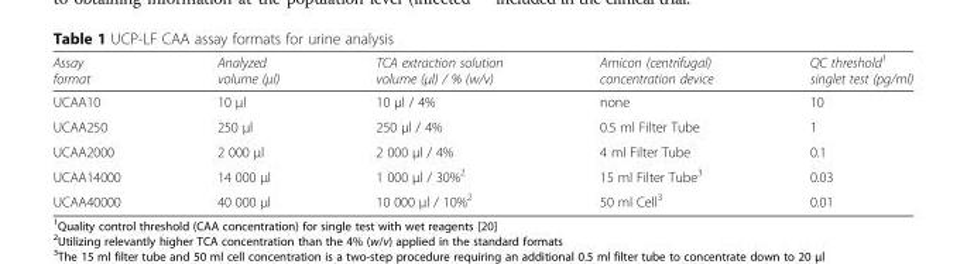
<table><thead><tr><td>Assay format</td><td>Analyzed volume (μl)</td><td>TCA extraction solution volume (μl) / % (w/v)</td><td>Amicon (centrifugal) concentration device</td><td>QC threshold<sup>1</sup> singlet test (pg/ml)</td></tr></thead><tbody><tr><td>UCAA10</td><td>10 μl</td><td>10 μl / 4%</td><td>none</td><td>10</td></tr><tr><td>UCAA250</td><td>250 μl</td><td>250 μl / 4%</td><td>0.5 ml Filter Tube</td><td>1</td></tr><tr><td>UCAA2000</td><td>2 000 μl</td><td>2 000 μl / 4%</td><td>4 ml Filter Tube</td><td>0.1</td></tr><tr><td>UCAA14000</td><td>14 000 μl</td><td>1 000 μl / 30%<sup>2</sup></td><td>15 ml Filter Tube<sup>3</sup></td><td>0.03</td></tr><tr><td>UCAA40000</td><td>40 000 μl</td><td>10 000 μl / 10%<sup>2</sup></td><td>50 ml Cell<sup>3</sup></td><td>0.01</td></tr></tbody></table>